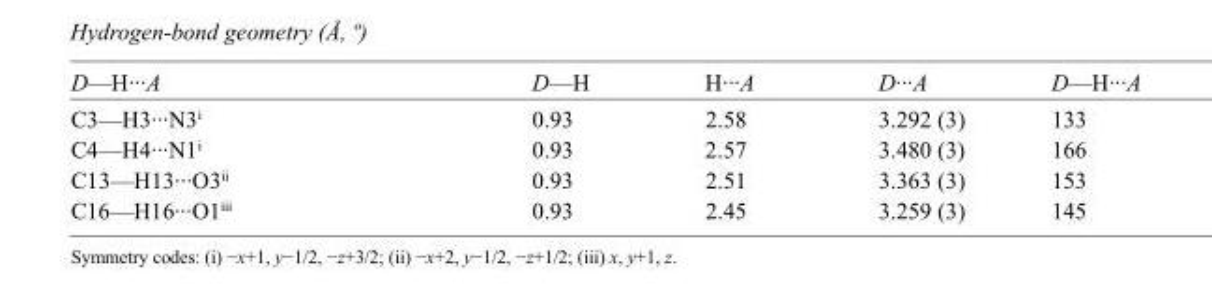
<table><tbody><tr><td>D—H···A</td><td>D—H</td><td>H···A</td><td>D···A</td><td>D—H···A</td></tr><tr><td>C3—H3···N3<sup>i</sup></td><td>0.93</td><td>2.58</td><td>3.292 (3)</td><td>133</td></tr><tr><td>C4—H4···N1<sup>i</sup></td><td>0.93</td><td>2.57</td><td>3.480 (3)</td><td>166</td></tr><tr><td>C13—H13···O3<sup>ii</sup></td><td>0.93</td><td>2.51</td><td>3.363 (3)</td><td>153</td></tr><tr><td>C16—H16···O1<sup>iii</sup></td><td>0.93</td><td>2.45</td><td>3.259 (3)</td><td>145</td></tr></tbody></table>